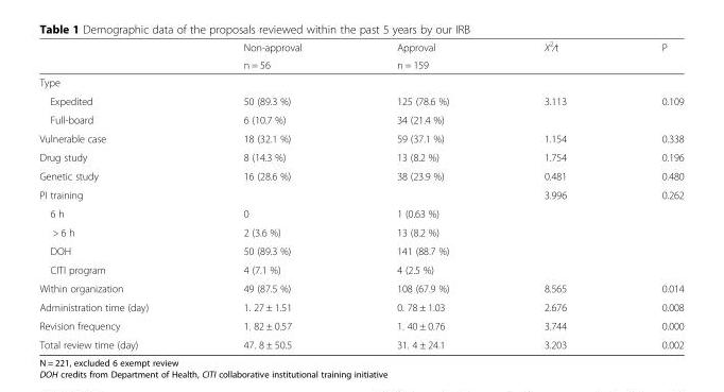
<table><thead><tr><td rowspan="2"></td><td rowspan="2">Non-approval n = 56</td><td rowspan="2">Approval n = 159</td><td rowspan="2">X<sup>2</sup>∕t</td><td rowspan="2">P</td></tr><tr></tr></thead><tbody><tr><td colspan="5">Type</td></tr><tr><td>Expedited</td><td>50 (89.3 %)</td><td>125 (78.6 %)</td><td>3.113</td><td>0.109</td></tr><tr><td>Full-board</td><td>6 (10.7 %)</td><td>34 (21.4 %)</td><td></td><td></td></tr><tr><td>Vulnerable case</td><td>18 (32.1 %)</td><td>59 (37.1 %)</td><td>1.154</td><td>0.338</td></tr><tr><td>Drug study</td><td>8 (14.3 %)</td><td>13 (8.2 %)</td><td>1.754</td><td>0.196</td></tr><tr><td>Genetic study</td><td>16 (28.6 %)</td><td>38 (23.9 %)</td><td>0.481</td><td>0.480</td></tr><tr><td>PI training</td><td></td><td></td><td>3.996</td><td>0.262</td></tr><tr><td>6 h</td><td>0</td><td>1 (0.63 %)</td><td></td><td></td></tr><tr><td>&gt; 6 h</td><td>2 (3.6 %)</td><td>13 (8.2 %)</td><td></td><td></td></tr><tr><td>DOH</td><td>50 (89.3 %)</td><td>141 (88.7 %)</td><td></td><td></td></tr><tr><td>CITI program</td><td>4 (7.1 %)</td><td>4 (2.5 %)</td><td></td><td></td></tr><tr><td>Within organization</td><td>49 (87.5 %)</td><td>108 (67.9 %)</td><td>8.565</td><td>0.014</td></tr><tr><td>Administration time (day)</td><td>1. 27 ± 1.51</td><td>0. 78 ± 1.03</td><td>2.676</td><td>0.008</td></tr><tr><td>Revision frequency</td><td>1. 82 ± 0.57</td><td>1. 40 ± 0.76</td><td>3.744</td><td>0.000</td></tr><tr><td>Total review time (day)</td><td>47. 8 ± 50.5</td><td>31. 4 ± 24.1</td><td>3.203</td><td>0.002</td></tr></tbody></table>